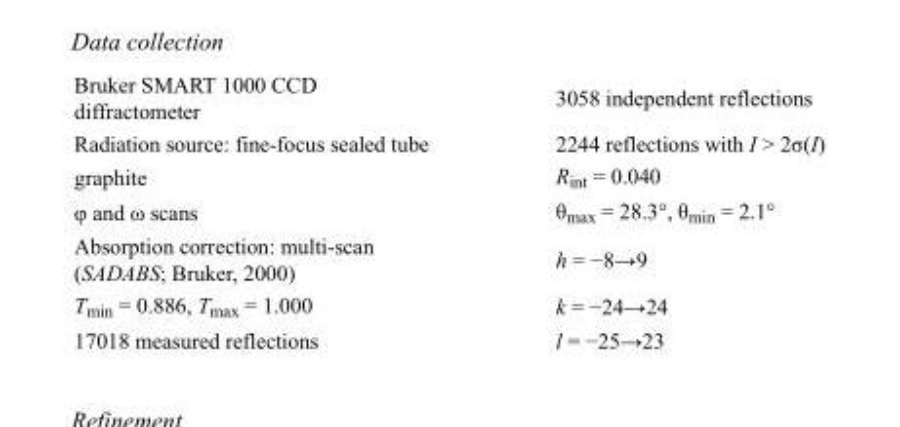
<table><tbody><tr><td>Bruker SMART 1000 CCD diffractometer</td><td>3058 independent reflections</td></tr><tr><td>Radiation source: fine-focus sealed tube</td><td>2244 reflections with I &gt; 2σ(I)</td></tr><tr><td>graphite</td><td>R<sub>int</sub> = 0.040</td></tr><tr><td>φ and ω scans</td><td>θ<sub>max</sub> = 28.3°, θ<sub>min</sub> = 2.1°</td></tr><tr><td>Absorption correction: multi-scan (SADABS; Bruker, 2000)</td><td>h = −8→9</td></tr><tr><td>T<sub>min</sub> = 0.886, T<sub>max</sub> = 1.000</td><td>k = −24→24</td></tr><tr><td>17018 measured reflections</td><td>l = −25→23</td></tr></tbody></table>